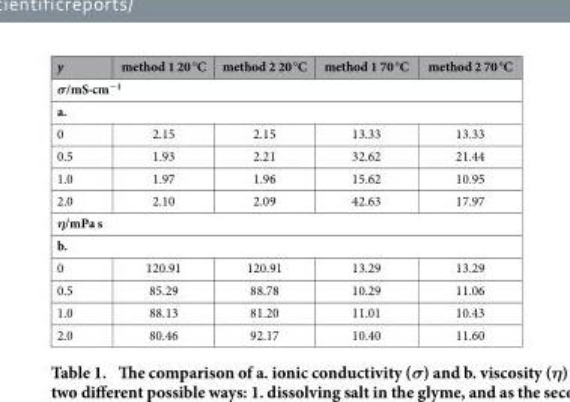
<table><thead><tr><td>y</td><td>method 1 20 °C</td><td>method 2 20 °C</td><td>method 1 70 °C</td><td>method 2 70 °C</td></tr></thead><tbody><tr><td colspan="5">σ/mS·cm<sup>−1</sup></td></tr><tr><td colspan="5">a.</td></tr><tr><td>0</td><td>2.15</td><td>2.15</td><td>13.33</td><td>13.33</td></tr><tr><td>0.5</td><td>1.93</td><td>2.21</td><td>32.62</td><td>21.44</td></tr><tr><td>1.0</td><td>1.97</td><td>1.96</td><td>15.62</td><td>10.95</td></tr><tr><td>2.0</td><td>2.10</td><td>2.09</td><td>42.63</td><td>17.97</td></tr><tr><td colspan="5">η/mPa s</td></tr><tr><td colspan="5">b.</td></tr><tr><td>0</td><td>120.91</td><td>120.91</td><td>13.29</td><td>13.29</td></tr><tr><td>0.5</td><td>85.29</td><td>88.78</td><td>10.29</td><td>11.06</td></tr><tr><td>1.0</td><td>88.13</td><td>81.20</td><td>11.01</td><td>10.43</td></tr><tr><td>2.0</td><td>80.46</td><td>92.17</td><td>10.40</td><td>11.60</td></tr></tbody></table>